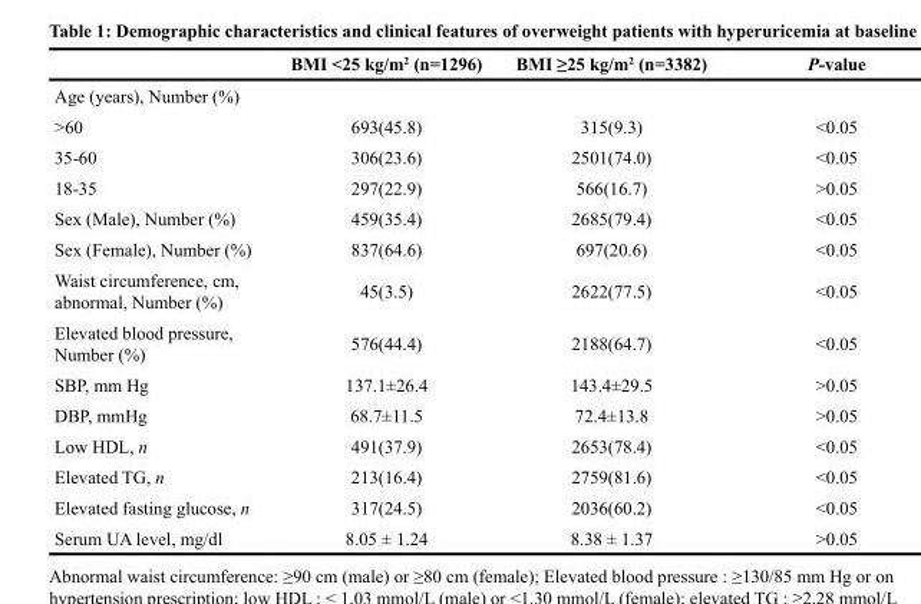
<table><thead><tr><td></td><td>BMI &lt;25 kg/m<sup>2</sup> (n=1296)</td><td>BMI ≥25 kg/m<sup>2</sup> (n=3382)</td><td>P-value</td></tr></thead><tbody><tr><td colspan="4">Age (years), Number (%)</td></tr><tr><td>&gt;60</td><td>693(45.8)</td><td>315(9.3)</td><td>&lt;0.05</td></tr><tr><td>35-60</td><td>306(23.6)</td><td>2501(74.0)</td><td>&lt;0.05</td></tr><tr><td>18-35</td><td>297(22.9)</td><td>566(16.7)</td><td>&gt;0.05</td></tr><tr><td>Sex (Male), Number (%)</td><td>459(35.4)</td><td>2685(79.4)</td><td>&lt;0.05</td></tr><tr><td>Sex (Female), Number (%)</td><td>837(64.6)</td><td>697(20.6)</td><td>&lt;0.05</td></tr><tr><td>Waist circumference, cm, abnormal, Number (%)</td><td>45(3.5)</td><td>2622(77.5)</td><td>&lt;0.05</td></tr><tr><td>Elevated blood pressure, Number (%)</td><td>576(44.4)</td><td>2188(64.7)</td><td>&lt;0.05</td></tr><tr><td>SBP, mm Hg</td><td>137.1±26.4</td><td>143.4±29.5</td><td>&gt;0.05</td></tr><tr><td>DBP, mmHg</td><td>68.7±11.5</td><td>72.4±13.8</td><td>&gt;0.05</td></tr><tr><td>Low HDL, n</td><td>491(37.9)</td><td>2653(78.4)</td><td>&lt;0.05</td></tr><tr><td>Elevated TG, n</td><td>213(16.4)</td><td>2759(81.6)</td><td>&lt;0.05</td></tr><tr><td>Elevated fasting glucose, n</td><td>317(24.5)</td><td>2036(60.2)</td><td>&lt;0.05</td></tr><tr><td>Serum UA level, mg/dl</td><td>8.05 ± 1.24</td><td>8.38 ± 1.37</td><td>&gt;0.05</td></tr></tbody></table>